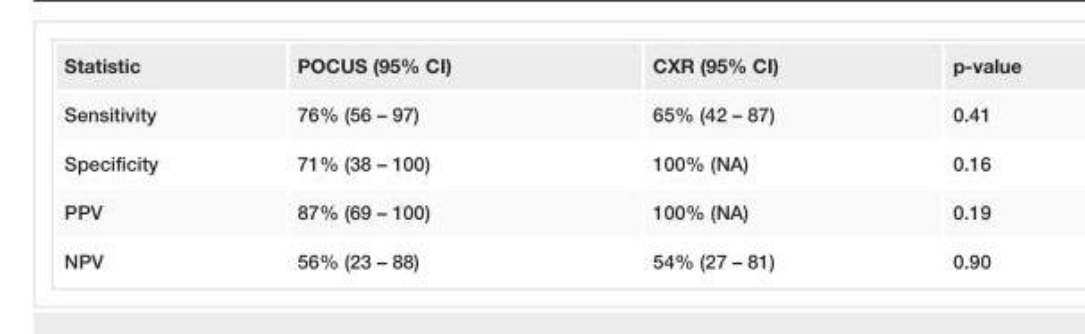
<table><tbody><tr><td>Statistic</td><td>POCUS (95% CI)</td><td>CXR (95% CI)</td><td>p-value</td></tr><tr><td>Sensitivity</td><td>76% (56 – 97)</td><td>65% (42 – 87)</td><td>0.41</td></tr><tr><td>Specificity</td><td>71% (38 – 100)</td><td>100% (NA)</td><td>0.16</td></tr><tr><td>PPV</td><td>87% (69 – 100)</td><td>100% (NA)</td><td>0.19</td></tr><tr><td>NPV</td><td>56% (23 – 88)</td><td>54% (27 – 81)</td><td>0.90</td></tr></tbody></table>